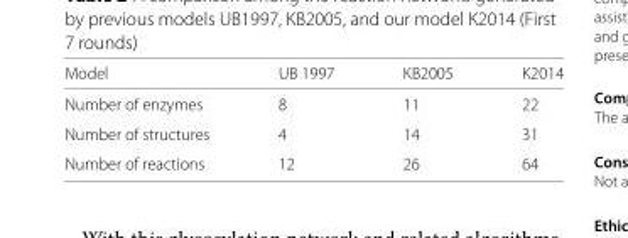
<table><thead><tr><td>Model</td><td>UB 1997</td><td>KB2005</td><td>K2014</td></tr></thead><tbody><tr><td>Number of enzymes</td><td>8</td><td>11</td><td>22</td></tr><tr><td>Number of structures</td><td>4</td><td>14</td><td>31</td></tr><tr><td>Number of reactions</td><td>12</td><td>26</td><td>64</td></tr></tbody></table>